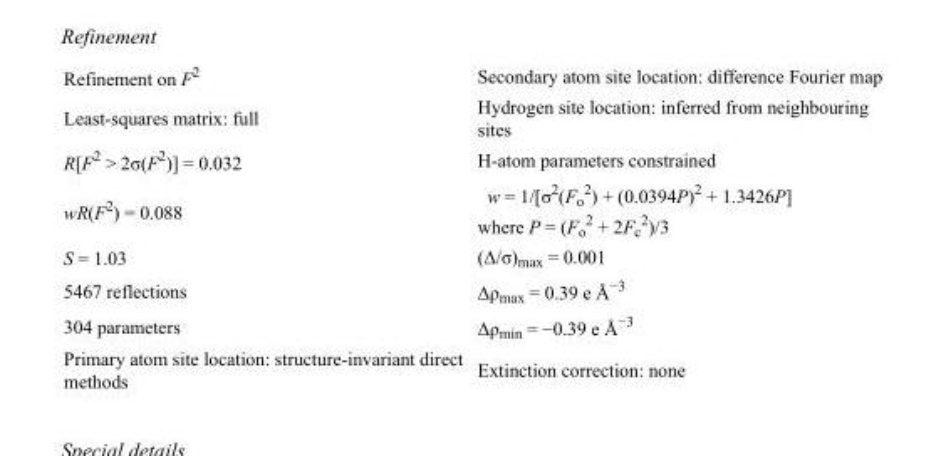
<table><tbody><tr><td>Refinement on F<sup>2</sup></td><td>Secondary atom site location: difference Fourier map</td></tr><tr><td>Least-squares matrix: full</td><td>Hydrogen site location: inferred from neighbouring sites</td></tr><tr><td>R[F<sup>2</sup> &gt; 2σ(F<sup>2</sup>)] = 0.032</td><td>H-atom parameters constrained</td></tr><tr><td>wR(F<sup>2</sup>) = 0.088</td><td>w = 1/[σ<sup>2</sup>(F<sub>o</sub> <sup>2</sup>) + (0.0394P)<sup>2</sup> + 1.3426P] where P = (F<sub>o</sub> <sup>2</sup> + 2F<sub>c</sub> <sup>2</sup>)/3</td></tr><tr><td>S = 1.03</td><td>(Δ/σ)<sub>max</sub> = 0.001</td></tr><tr><td>5467 reflections</td><td>Δρ<sub>max</sub> = 0.39 e Å<sup>−3</sup></td></tr><tr><td>304 parameters</td><td>Δρ<sub>min</sub> = −0.39 e Å<sup>−3</sup></td></tr><tr><td>Primary atom site location: structure-invariant direct methods</td><td>Extinction correction: none</td></tr></tbody></table>